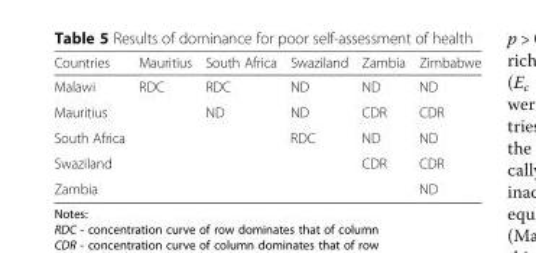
<table><thead><tr><td>Countries</td><td>Mauritius</td><td>South Africa</td><td>Swaziland</td><td>Zambia</td><td>Zimbabwe</td></tr></thead><tbody><tr><td>Malawi</td><td>RDC</td><td>RDC</td><td>ND</td><td>ND</td><td>ND</td></tr><tr><td>Mauritius</td><td></td><td>ND</td><td>ND</td><td>CDR</td><td>CDR</td></tr><tr><td>South Africa</td><td></td><td></td><td>RDC</td><td>ND</td><td>ND</td></tr><tr><td>Swaziland</td><td></td><td></td><td></td><td>CDR</td><td>CDR</td></tr><tr><td>Zambia</td><td></td><td></td><td></td><td></td><td>ND</td></tr></tbody></table>